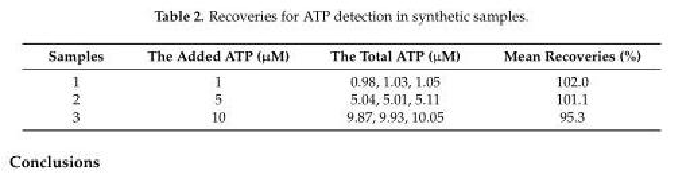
<table><thead><tr><td>Samples</td><td>The Added ATP (µM)</td><td>The Total ATP (µM)</td><td>Mean Recoveries (%)</td></tr></thead><tbody><tr><td>1</td><td>1</td><td>0.98, 1.03, 1.05</td><td>102.0</td></tr><tr><td>2</td><td>5</td><td>5.04, 5.01, 5.11</td><td>101.1</td></tr><tr><td>3</td><td>10</td><td>9.87, 9.93, 10.05</td><td>95.3</td></tr></tbody></table>